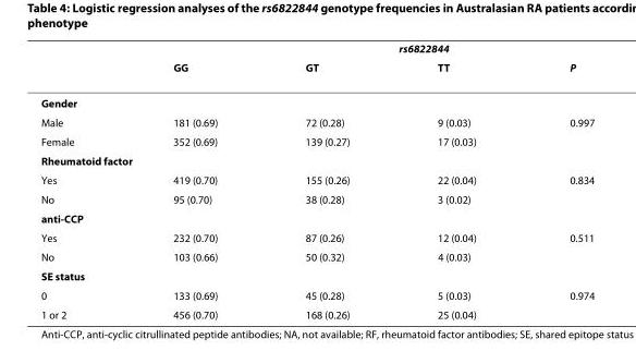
<table><thead><tr><td rowspan="2"></td><td colspan="4">rs6822844</td></tr><tr><td>GG</td><td>GT</td><td>TT</td><td>P</td></tr></thead><tbody><tr><td colspan="5">Gender</td></tr><tr><td>Male</td><td>181 (0.69)</td><td>72 (0.28)</td><td>9 (0.03)</td><td>0.997</td></tr><tr><td>Female</td><td>352 (0.69)</td><td>139 (0.27)</td><td>17 (0.03)</td><td></td></tr><tr><td colspan="5">Rheumatoid factor</td></tr><tr><td>Yes</td><td>419 (0.70)</td><td>155 (0.26)</td><td>22 (0.04)</td><td>0.834</td></tr><tr><td>No</td><td>95 (0.70)</td><td>38 (0.28)</td><td>3 (0.02)</td><td></td></tr><tr><td colspan="5">anti-CCP</td></tr><tr><td>Yes</td><td>232 (0.70)</td><td>87 (0.26)</td><td>12 (0.04)</td><td>0.511</td></tr><tr><td>No</td><td>103 (0.66)</td><td>50 (0.32)</td><td>4 (0.03)</td><td></td></tr><tr><td colspan="5">SE status</td></tr><tr><td>0</td><td>133 (0.69)</td><td>45 (0.28)</td><td>5 (0.03)</td><td>0.974</td></tr><tr><td>1 or 2</td><td>456 (0.70)</td><td>168 (0.26)</td><td>25 (0.04)</td><td></td></tr></tbody></table>